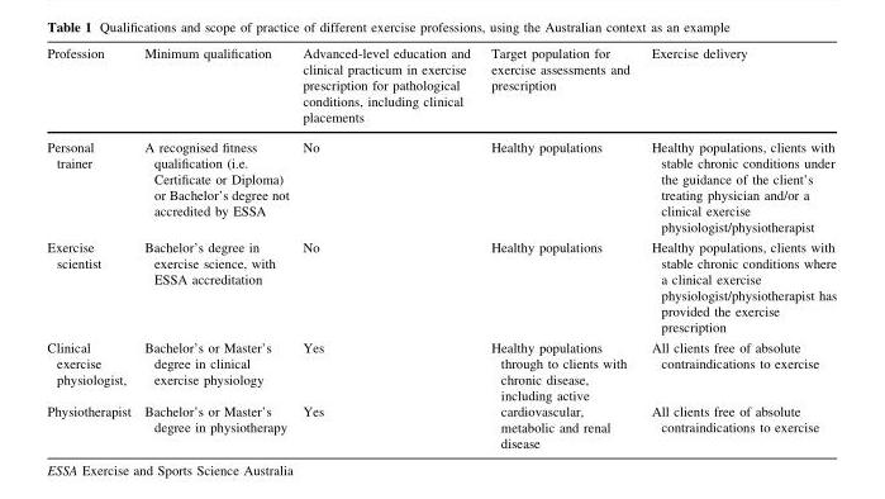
<table><thead><tr><td>Profession</td><td>Minimum qualification</td><td>Advanced-level education and clinical practicum in exercise prescription for pathological conditions, including clinical placements</td><td>Target population for exercise assessments and prescription</td><td>Exercise delivery</td></tr></thead><tbody><tr><td>Personal trainer</td><td>A recognised fitness qualification (i.e. Certificate or Diploma) or Bachelor’s degree not accredited by ESSA</td><td>No</td><td>Healthy populations</td><td>Healthy populations, clients with stable chronic conditions under the guidance of the client’s treating physician and/or a clinical exercise physiologist/physiotherapist</td></tr><tr><td>Exercise scientist</td><td>Bachelor’s degree in exercise science, with ESSA accreditation</td><td>No</td><td>Healthy populations</td><td>Healthy populations, clients with stable chronic conditions where a clinical exercise physiologist/physiotherapist has provided the exercise prescription</td></tr><tr><td>Clinical exercise physiologist,</td><td>Bachelor’s or Master’s degree in clinical exercise physiology</td><td>Yes</td><td rowspan="2">Healthy populations through to clients with chronic disease, including active cardiovascular, metabolic and renal disease</td><td>All clients free of absolute contraindications to exercise</td></tr><tr><td>Physiotherapist</td><td>Bachelor’s or Master’s degree in physiotherapy</td><td>Yes</td><td>All clients free of absolute contraindications to exercise</td></tr></tbody></table>